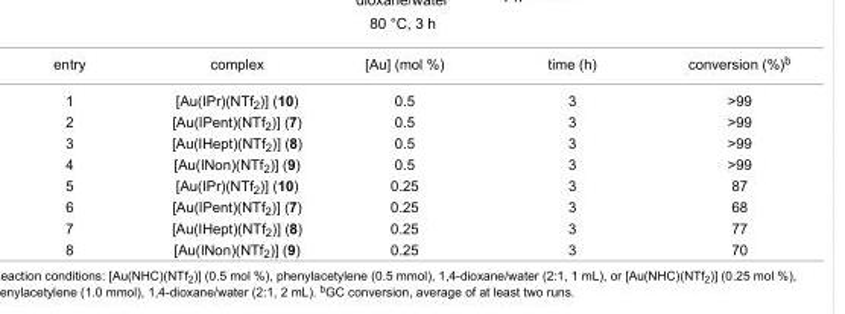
<table><tbody><tr><td>entry</td><td>complex</td><td>[Au] (mol %)</td><td>time (h)</td><td>conversion (%)<sup>b</sup></td></tr><tr><td>1</td><td>[Au(IPr)(NTf<sub>2</sub>)] (10)</td><td>0.5</td><td>3</td><td>&gt;99</td></tr><tr><td>2</td><td>[Au(IPent)(NTf<sub>2</sub>)] (7)</td><td>0.5</td><td>3</td><td>&gt;99</td></tr><tr><td>3</td><td>[Au(IHept)(NTf<sub>2</sub>)] (8)</td><td>0.5</td><td>3</td><td>&gt;99</td></tr><tr><td>4</td><td>[Au(INon)(NTf<sub>2</sub>)] (9)</td><td>0.5</td><td>3</td><td>&gt;99</td></tr><tr><td>5</td><td>[Au(IPr)(NTf<sub>2</sub>)] (10)</td><td>0.25</td><td>3</td><td>87</td></tr><tr><td>6</td><td>[Au(IPent)(NTf<sub>2</sub>)] (7)</td><td>0.25</td><td>3</td><td>68</td></tr><tr><td>7</td><td>[Au(IHept)(NTf<sub>2</sub>)] (8)</td><td>0.25</td><td>3</td><td>77</td></tr><tr><td>8</td><td>[Au(INon)(NTf<sub>2</sub>)] (9)</td><td>0.25</td><td>3</td><td>70</td></tr></tbody></table>